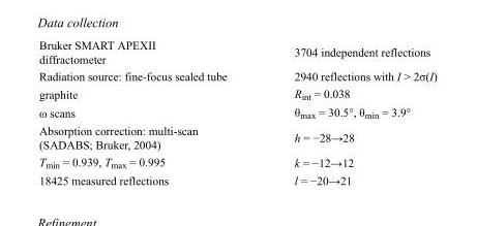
<table><tbody><tr><td>Bruker SMART APEXII diffractometer</td><td>3704 independent reflections</td></tr><tr><td>Radiation source: fine-focus sealed tube</td><td>2940 reflections with I &gt; 2σ(I)</td></tr><tr><td>graphite</td><td>R<sub>int</sub> = 0.038</td></tr><tr><td>ω scans</td><td>θ<sub>max</sub> = 30.5°, θ<sub>min</sub> = 3.9°</td></tr><tr><td>Absorption correction: multi-scan (SADABS; Bruker, 2004)</td><td>h = −28→28</td></tr><tr><td>T<sub>min</sub> = 0.939, T<sub>max</sub> = 0.995</td><td>k = −12→12</td></tr><tr><td>18425 measured reflections</td><td>l = −20→21</td></tr></tbody></table>